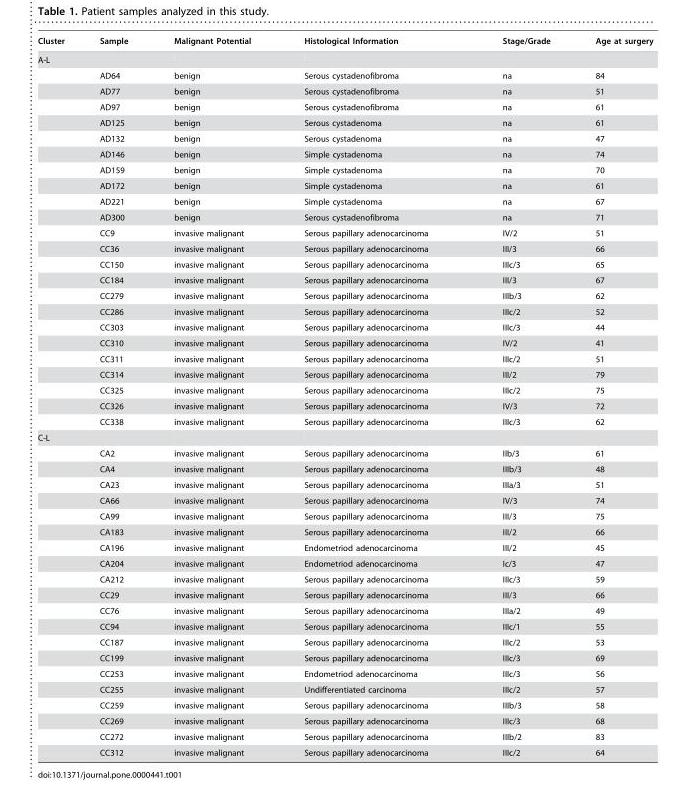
<table><thead><tr><td>Cluster</td><td>Sample</td><td>Malignant Potential</td><td>Histological Information</td><td>Stage/Grade</td><td>Age at surgery</td></tr></thead><tbody><tr><td colspan="6">A-L</td></tr><tr><td></td><td>AD64</td><td>benign</td><td>Serous cystadenofibroma</td><td>na</td><td>84</td></tr><tr><td></td><td>AD77</td><td>benign</td><td>Serous cystadenofibroma</td><td>na</td><td>51</td></tr><tr><td></td><td>AD97</td><td>benign</td><td>Serous cystadenofibroma</td><td>na</td><td>61</td></tr><tr><td></td><td>AD125</td><td>benign</td><td>Serous cystadenoma</td><td>na</td><td>61</td></tr><tr><td></td><td>AD132</td><td>benign</td><td>Serous cystadenoma</td><td>na</td><td>47</td></tr><tr><td></td><td>AD146</td><td>benign</td><td>Simple cystadenoma</td><td>na</td><td>74</td></tr><tr><td></td><td>AD159</td><td>benign</td><td>Simple cystadenoma</td><td>na</td><td>70</td></tr><tr><td></td><td>AD172</td><td>benign</td><td>Simple cystadenoma</td><td>na</td><td>61</td></tr><tr><td></td><td>AD221</td><td>benign</td><td>Simple cystadenoma</td><td>na</td><td>67</td></tr><tr><td></td><td>AD300</td><td>benign</td><td>Serous cystadenofibroma</td><td>na</td><td>71</td></tr><tr><td></td><td>CC9</td><td>invasive malignant</td><td>Serous papillary adenocarcinoma</td><td>IV/2</td><td>51</td></tr><tr><td></td><td>CC36</td><td>invasive malignant</td><td>Serous papillary adenocarcinoma</td><td>III/3</td><td>66</td></tr><tr><td></td><td>CC150</td><td>invasive malignant</td><td>Serous papillary adenocarcinoma</td><td>IIIc/3</td><td>65</td></tr><tr><td></td><td>CC184</td><td>invasive malignant</td><td>Serous papillary adenocarcinoma</td><td>III/3</td><td>67</td></tr><tr><td></td><td>CC279</td><td>invasive malignant</td><td>Serous papillary adenocarcinoma</td><td>IIIb/3</td><td>62</td></tr><tr><td></td><td>CC286</td><td>invasive malignant</td><td>Serous papillary adenocarcinoma</td><td>IIIc/2</td><td>52</td></tr><tr><td></td><td>CC303</td><td>invasive malignant</td><td>Serous papillary adenocarcinoma</td><td>IIIc/3</td><td>44</td></tr><tr><td></td><td>CC310</td><td>invasive malignant</td><td>Serous papillary adenocarcinoma</td><td>IV/2</td><td>41</td></tr><tr><td></td><td>CC311</td><td>invasive malignant</td><td>Serous papillary adenocarcinoma</td><td>IIIc/2</td><td>51</td></tr><tr><td></td><td>CC314</td><td>invasive malignant</td><td>Serous papillary adenocarcinoma</td><td>III/2</td><td>79</td></tr><tr><td></td><td>CC325</td><td>invasive malignant</td><td>Serous papillary adenocarcinoma</td><td>IIIc/2</td><td>75</td></tr><tr><td></td><td>CC326</td><td>invasive malignant</td><td>Serous papillary adenocarcinoma</td><td>IV/3</td><td>72</td></tr><tr><td></td><td>CC338</td><td>invasive malignant</td><td>Serous papillary adenocarcinoma</td><td>IIIc/3</td><td>62</td></tr><tr><td colspan="6">C-L</td></tr><tr><td></td><td>CA2</td><td>invasive malignant</td><td>Serous papillary adenocarcinoma</td><td>IIb/3</td><td>61</td></tr><tr><td></td><td>CA4</td><td>invasive malignant</td><td>Serous papillary adenocarcinoma</td><td>IIIb/3</td><td>48</td></tr><tr><td></td><td>CA23</td><td>invasive malignant</td><td>Serous papillary adenocarcinoma</td><td>IIIa/3</td><td>51</td></tr><tr><td></td><td>CA66</td><td>invasive malignant</td><td>Serous papillary adenocarcinoma</td><td>IV/3</td><td>74</td></tr><tr><td></td><td>CA99</td><td>invasive malignant</td><td>Serous papillary adenocarcinoma</td><td>III/3</td><td>75</td></tr><tr><td></td><td>CA183</td><td>invasive malignant</td><td>Serous papillary adenocarcinoma</td><td>III/2</td><td>66</td></tr><tr><td></td><td>CA196</td><td>invasive malignant</td><td>Endometriod adenocarcinoma</td><td>III/2</td><td>45</td></tr><tr><td></td><td>CA204</td><td>invasive malignant</td><td>Endometriod adenocarcinoma</td><td>Ic/3</td><td>47</td></tr><tr><td></td><td>CA212</td><td>invasive malignant</td><td>Serous papillary adenocarcinoma</td><td>IIIc/3</td><td>59</td></tr><tr><td></td><td>CC29</td><td>invasive malignant</td><td>Serous papillary adenocarcinoma</td><td>III/3</td><td>66</td></tr><tr><td></td><td>CC76</td><td>invasive malignant</td><td>Serous papillary adenocarcinoma</td><td>IIIa/2</td><td>49</td></tr><tr><td></td><td>CC94</td><td>invasive malignant</td><td>Serous papillary adenocarcinoma</td><td>IIIc/1</td><td>55</td></tr><tr><td></td><td>CC187</td><td>invasive malignant</td><td>Serous papillary adenocarcinoma</td><td>IIIc/2</td><td>53</td></tr><tr><td></td><td>CC199</td><td>invasive malignant</td><td>Serous papillary adenocarcinoma</td><td>IIIc/3</td><td>69</td></tr><tr><td></td><td>CC253</td><td>invasive malignant</td><td>Endometriod adenocarcinoma</td><td>IIIc/3</td><td>56</td></tr><tr><td></td><td>CC255</td><td>invasive malignant</td><td>Undifferentiated carcinoma</td><td>IIIc/2</td><td>57</td></tr><tr><td></td><td>CC259</td><td>invasive malignant</td><td>Serous papillary adenocarcinoma</td><td>IIIb/3</td><td>58</td></tr><tr><td></td><td>CC269</td><td>invasive malignant</td><td>Serous papillary adenocarcinoma</td><td>IIIc/3</td><td>68</td></tr><tr><td></td><td>CC272</td><td>invasive malignant</td><td>Serous papillary adenocarcinoma</td><td>IIIb/2</td><td>83</td></tr><tr><td></td><td>CC312</td><td>invasive malignant</td><td>Serous papillary adenocarcinoma</td><td>IIIc/2</td><td>64</td></tr></tbody></table>